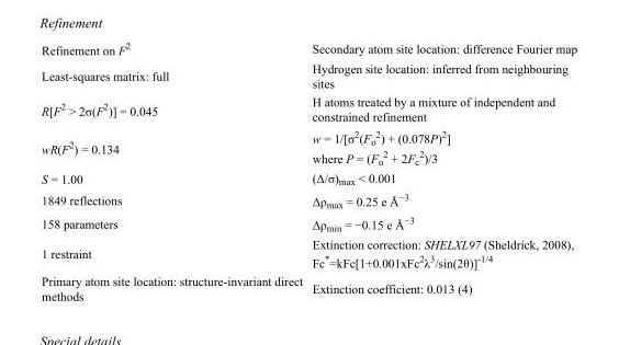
<table><tbody><tr><td>Refinement on F<sup>2</sup></td><td>Secondary atom site location: difference Fourier map</td></tr><tr><td>Least-squares matrix: full</td><td>Hydrogen site location: inferred from neighbouring sites</td></tr><tr><td>R[F<sup>2</sup> &gt; 2σ(F<sup>2</sup>)] = 0.045</td><td>H atoms treated by a mixture of independent and constrained refinement</td></tr><tr><td>wR(F<sup>2</sup>) = 0.134</td><td>w = 1/[σ<sup>2</sup>(F<sub>o</sub> <sup>2</sup>) + (0.078P)<sup>2</sup>] where P = (F<sub>o</sub> <sup>2</sup> + 2F<sub>c</sub> <sup>2</sup>)/3</td></tr><tr><td>S = 1.00</td><td>(Δ/σ)<sub>max</sub> &lt; 0.001</td></tr><tr><td>1849 reflections</td><td>Δρ<sub>max</sub> = 0.25 e Å<sup>−3</sup></td></tr><tr><td>158 parameters</td><td>Δρ<sub>min</sub> = −0.15 e Å<sup>−3</sup></td></tr><tr><td>1 restraint</td><td>Extinction correction: SHELXL97 (Sheldrick, 2008), Fc*=kFc[1+0.001xFc<sup>2</sup>λ<sup>3</sup>/sin(2θ)]<sup>-1/4</sup></td></tr><tr><td>Primary atom site location: structure-invariant direct methods</td><td>Extinction coefficient: 0.013 (4)</td></tr></tbody></table>